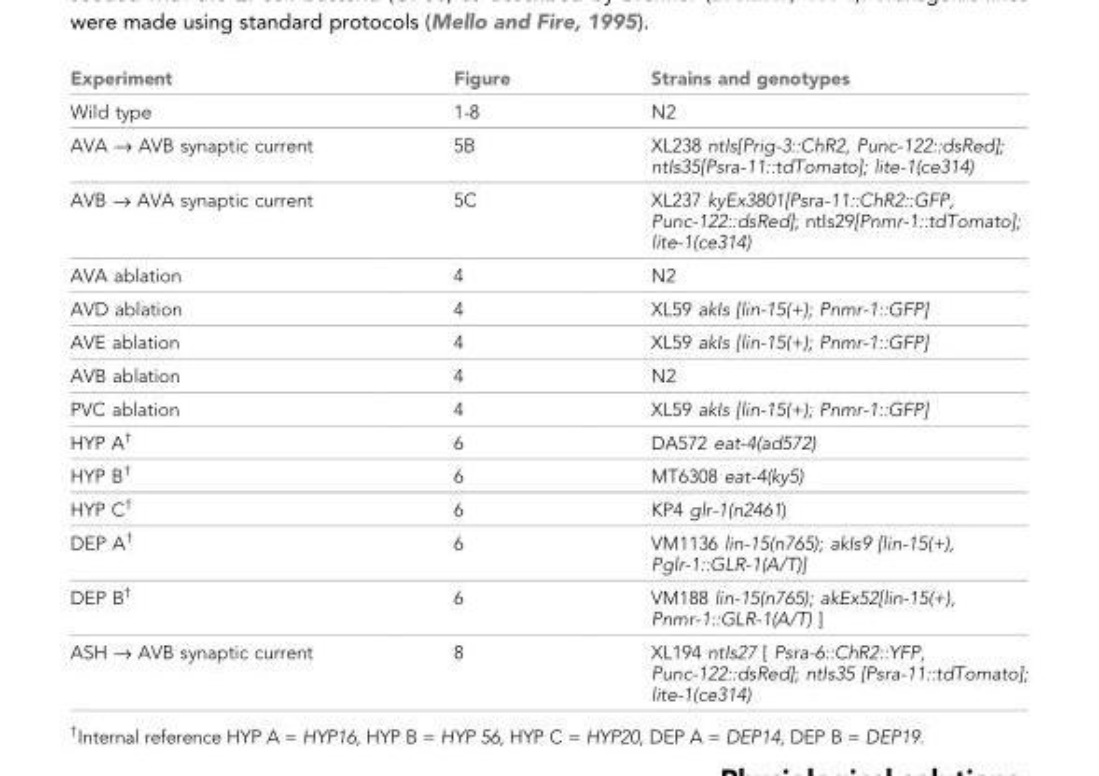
<table><thead><tr><td>Experiment</td><td>Figure</td><td>Strains and genotypes</td></tr></thead><tbody><tr><td>Wild type</td><td>1-8</td><td>N2</td></tr><tr><td>AVA fi AVB synaptic current</td><td>5B</td><td>XL238 ntIs[Prig-3::ChR2, Punc-122::dsRed]; ntIs35[Psra-11::tdTomato]; lite-1(ce314)</td></tr><tr><td>AVB fi AVA synaptic current</td><td>5C</td><td>XL237 kyEx3801[Psra-11::ChR2::GFP, Punc-122::dsRed]; ntIs29[Pnmr-1::tdTomato]; lite-1(ce314)</td></tr><tr><td>AVA ablation</td><td>4</td><td>N2</td></tr><tr><td>AVD ablation</td><td>4</td><td>XL59 akIs [lin-15(+); Pnmr-1::GFP]</td></tr><tr><td>AVE ablation</td><td>4</td><td>XL59 akIs [lin-15(+); Pnmr-1::GFP]</td></tr><tr><td>AVB ablation</td><td>4</td><td>N2</td></tr><tr><td>PVC ablation</td><td>4</td><td>XL59 akIs [lin-15(+); Pnmr-1::GFP]</td></tr><tr><td>HYP A<sup>†</sup></td><td>6</td><td>DA572 eat-4(ad572)</td></tr><tr><td>HYP B<sup>†</sup></td><td>6</td><td>MT6308 eat-4(ky5)</td></tr><tr><td>HYP C<sup>†</sup></td><td>6</td><td>KP4 glr-1(n2461)</td></tr><tr><td>DEP A<sup>†</sup></td><td>6</td><td>VM1136 lin-15(n765); akIs9 [lin-15(+), Pglr-1::GLR-1(A/T)]</td></tr><tr><td>DEP B<sup>†</sup></td><td>6</td><td>VM188 lin-15(n765); akEx52[lin-15(+), Pnmr-1::GLR-1(A/T) ]</td></tr><tr><td>ASH fi AVB synaptic current</td><td>8</td><td>XL194 ntIs27 [ Psra-6::ChR2::YFP, Punc-122::dsRed]; ntIs35 [Psra-11::tdTomato]; lite-1(ce314)</td></tr></tbody></table>